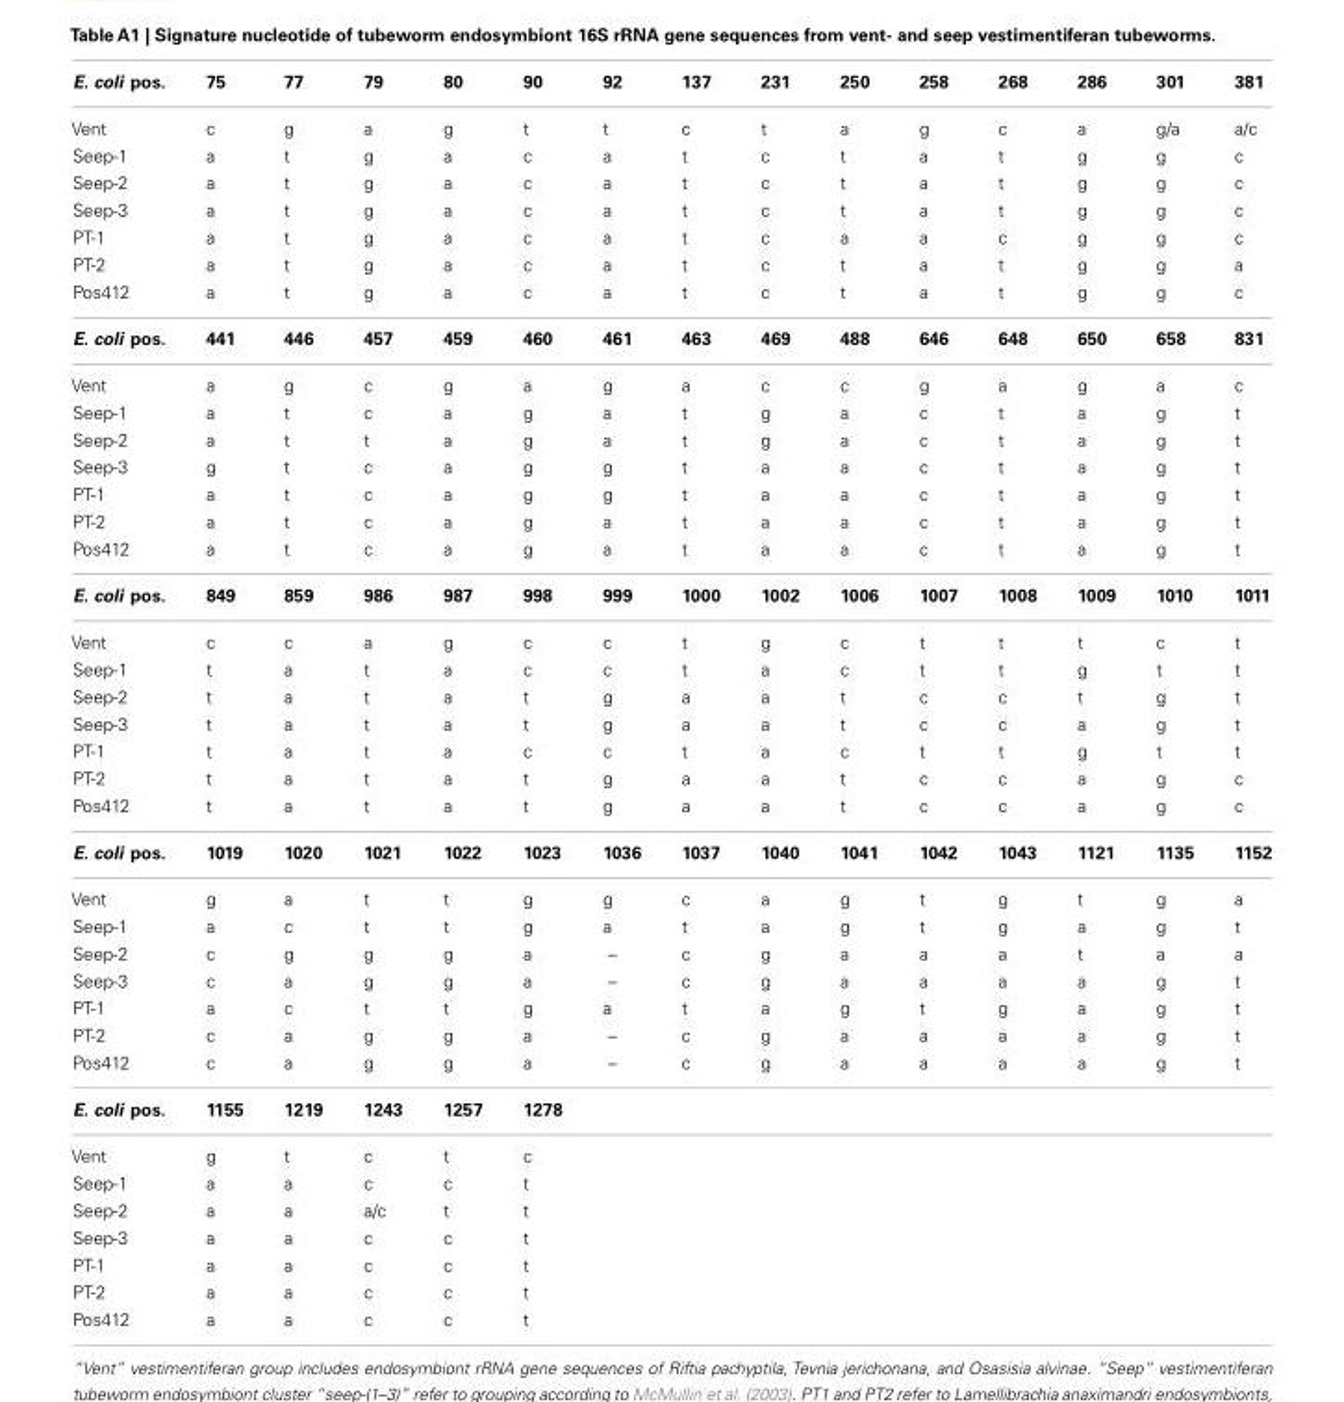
<table><thead><tr><td>E. coli pos.</td><td>75</td><td>77</td><td>79</td><td>80</td><td>90</td><td>92</td><td>137</td><td>231</td><td>250</td><td>258</td><td>268</td><td>286</td><td>301</td><td>381</td></tr></thead><tbody><tr><td>Vent</td><td>c</td><td>g</td><td>a</td><td>g</td><td>t</td><td>t</td><td>c</td><td>t</td><td>a</td><td>g</td><td>c</td><td>a</td><td>g/a</td><td>a/c</td></tr><tr><td>Seep-1</td><td>a</td><td>t</td><td>g</td><td>a</td><td>c</td><td>a</td><td>t</td><td>c</td><td>t</td><td>a</td><td>t</td><td>g</td><td>g</td><td>c</td></tr><tr><td>Seep-2</td><td>a</td><td>t</td><td>g</td><td>a</td><td>c</td><td>a</td><td>t</td><td>c</td><td>t</td><td>a</td><td>t</td><td>g</td><td>g</td><td>c</td></tr><tr><td>Seep-3</td><td>a</td><td>t</td><td>g</td><td>a</td><td>c</td><td>a</td><td>t</td><td>c</td><td>t</td><td>a</td><td>t</td><td>g</td><td>g</td><td>c</td></tr><tr><td>PT-1</td><td>a</td><td>t</td><td>g</td><td>a</td><td>c</td><td>a</td><td>t</td><td>c</td><td>a</td><td>a</td><td>c</td><td>g</td><td>g</td><td>c</td></tr><tr><td>PT-2</td><td>a</td><td>t</td><td>g</td><td>a</td><td>c</td><td>a</td><td>t</td><td>c</td><td>t</td><td>a</td><td>t</td><td>g</td><td>g</td><td>a</td></tr><tr><td>Pos412</td><td>a</td><td>t</td><td>g</td><td>a</td><td>c</td><td>a</td><td>t</td><td>c</td><td>t</td><td>a</td><td>t</td><td>g</td><td>g</td><td>c</td></tr><tr><td>E. coli pos.</td><td>441</td><td>446</td><td>457</td><td>459</td><td>460</td><td>461</td><td>463</td><td>469</td><td>488</td><td>646</td><td>648</td><td>650</td><td>658</td><td>831</td></tr><tr><td>Vent</td><td>a</td><td>g</td><td>c</td><td>g</td><td>a</td><td>g</td><td>a</td><td>c</td><td>c</td><td>g</td><td>a</td><td>g</td><td>a</td><td>c</td></tr><tr><td>Seep-1</td><td>a</td><td>t</td><td>c</td><td>a</td><td>g</td><td>a</td><td>t</td><td>g</td><td>a</td><td>c</td><td>t</td><td>a</td><td>g</td><td>t</td></tr><tr><td>Seep-2</td><td>a</td><td>t</td><td>t</td><td>a</td><td>g</td><td>a</td><td>t</td><td>g</td><td>a</td><td>c</td><td>t</td><td>a</td><td>g</td><td>t</td></tr><tr><td>Seep-3</td><td>g</td><td>t</td><td>c</td><td>a</td><td>g</td><td>g</td><td>t</td><td>a</td><td>a</td><td>c</td><td>t</td><td>a</td><td>g</td><td>t</td></tr><tr><td>PT-1</td><td>a</td><td>t</td><td>c</td><td>a</td><td>g</td><td>g</td><td>t</td><td>a</td><td>a</td><td>c</td><td>t</td><td>a</td><td>g</td><td>t</td></tr><tr><td>PT-2</td><td>a</td><td>t</td><td>c</td><td>a</td><td>g</td><td>a</td><td>t</td><td>a</td><td>a</td><td>c</td><td>t</td><td>a</td><td>g</td><td>t</td></tr><tr><td>Pos412</td><td>a</td><td>t</td><td>c</td><td>a</td><td>g</td><td>a</td><td>t</td><td>a</td><td>a</td><td>c</td><td>t</td><td>a</td><td>g</td><td>t</td></tr><tr><td>E. coli pos.</td><td>849</td><td>859</td><td>986</td><td>987</td><td>998</td><td>999</td><td>1000</td><td>1002</td><td>1006</td><td>1007</td><td>1008</td><td>1009</td><td>1010</td><td>1011</td></tr><tr><td>Vent</td><td>c</td><td>c</td><td>a</td><td>g</td><td>c</td><td>c</td><td>t</td><td>g</td><td>c</td><td>t</td><td>t</td><td>t</td><td>c</td><td>t</td></tr><tr><td>Seep-1</td><td>t</td><td>a</td><td>t</td><td>a</td><td>c</td><td>c</td><td>t</td><td>a</td><td>c</td><td>t</td><td>t</td><td>g</td><td>t</td><td>t</td></tr><tr><td>Seep-2</td><td>t</td><td>a</td><td>t</td><td>a</td><td>t</td><td>g</td><td>a</td><td>a</td><td>t</td><td>c</td><td>c</td><td>t</td><td>g</td><td>t</td></tr><tr><td>Seep-3</td><td>t</td><td>a</td><td>t</td><td>a</td><td>t</td><td>g</td><td>a</td><td>a</td><td>t</td><td>c</td><td>c</td><td>a</td><td>g</td><td>t</td></tr><tr><td>PT-1</td><td>t</td><td>a</td><td>t</td><td>a</td><td>c</td><td>c</td><td>t</td><td>a</td><td>c</td><td>t</td><td>t</td><td>g</td><td>t</td><td>t</td></tr><tr><td>PT-2</td><td>t</td><td>a</td><td>t</td><td>a</td><td>t</td><td>g</td><td>a</td><td>a</td><td>t</td><td>c</td><td>c</td><td>a</td><td>g</td><td>c</td></tr><tr><td>Pos412</td><td>t</td><td>a</td><td>t</td><td>a</td><td>t</td><td>g</td><td>a</td><td>a</td><td>t</td><td>c</td><td>c</td><td>a</td><td>g</td><td>c</td></tr><tr><td>E. coli pos.</td><td>1019</td><td>1020</td><td>1021</td><td>1022</td><td>1023</td><td>1036</td><td>1037</td><td>1040</td><td>1041</td><td>1042</td><td>1043</td><td>1121</td><td>1135</td><td>1152</td></tr><tr><td>Vent</td><td>g</td><td>a</td><td>t</td><td>t</td><td>g</td><td>g</td><td>c</td><td>a</td><td>g</td><td>t</td><td>g</td><td>t</td><td>g</td><td>a</td></tr><tr><td>Seep-1</td><td>a</td><td>c</td><td>t</td><td>t</td><td>g</td><td>a</td><td>t</td><td>a</td><td>g</td><td>t</td><td>g</td><td>a</td><td>g</td><td>t</td></tr><tr><td>Seep-2</td><td>c</td><td>g</td><td>g</td><td>g</td><td>a</td><td>–</td><td>c</td><td>g</td><td>a</td><td>a</td><td>a</td><td>t</td><td>a</td><td>a</td></tr><tr><td>Seep-3</td><td>c</td><td>a</td><td>g</td><td>g</td><td>a</td><td>–</td><td>c</td><td>g</td><td>a</td><td>a</td><td>a</td><td>a</td><td>g</td><td>t</td></tr><tr><td>PT-1</td><td>a</td><td>c</td><td>t</td><td>t</td><td>g</td><td>a</td><td>t</td><td>a</td><td>g</td><td>t</td><td>g</td><td>a</td><td>g</td><td>t</td></tr><tr><td>PT-2</td><td>c</td><td>a</td><td>g</td><td>g</td><td>a</td><td>–</td><td>c</td><td>g</td><td>a</td><td>a</td><td>a</td><td>a</td><td>g</td><td>t</td></tr><tr><td>Pos412</td><td>c</td><td>a</td><td>g</td><td>g</td><td>a</td><td>–</td><td>c</td><td>g</td><td>a</td><td>a</td><td>a</td><td>a</td><td>g</td><td>t</td></tr><tr><td>E. coli pos.</td><td>1155</td><td>1219</td><td>1243</td><td>1257</td><td>1278</td><td></td><td></td><td></td><td></td><td></td><td></td><td></td><td></td><td></td></tr><tr><td>Vent</td><td>g</td><td>t</td><td>c</td><td>t</td><td>c</td><td></td><td></td><td></td><td></td><td></td><td></td><td></td><td></td><td></td></tr><tr><td>Seep-1</td><td>a</td><td>a</td><td>c</td><td>c</td><td>t</td><td></td><td></td><td></td><td></td><td></td><td></td><td></td><td></td><td></td></tr><tr><td>Seep-2</td><td>a</td><td>a</td><td>a/c</td><td>t</td><td>t</td><td></td><td></td><td></td><td></td><td></td><td></td><td></td><td></td><td></td></tr><tr><td>Seep-3</td><td>a</td><td>a</td><td>c</td><td>c</td><td>t</td><td></td><td></td><td></td><td></td><td></td><td></td><td></td><td></td><td></td></tr><tr><td>PT-1</td><td>a</td><td>a</td><td>c</td><td>c</td><td>t</td><td></td><td></td><td></td><td></td><td></td><td></td><td></td><td></td><td></td></tr><tr><td>PT-2</td><td>a</td><td>a</td><td>c</td><td>c</td><td>t</td><td></td><td></td><td></td><td></td><td></td><td></td><td></td><td></td><td></td></tr><tr><td>Pos412</td><td>a</td><td>a</td><td>c</td><td>c</td><td>t</td><td></td><td></td><td></td><td></td><td></td><td></td><td></td><td></td><td></td></tr></tbody></table>